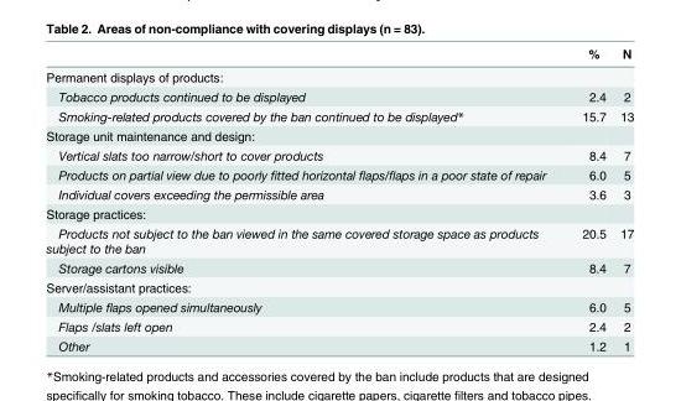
<table><thead><tr><td></td><td>%</td><td>N</td></tr></thead><tbody><tr><td colspan="3">Permanent displays of products:</td></tr><tr><td>Tobacco products continued to be displayed</td><td>2.4</td><td>2</td></tr><tr><td>Smoking-related products covered by the ban continued to be displayed*</td><td>15.7</td><td>13</td></tr><tr><td colspan="3">Storage unit maintenance and design:</td></tr><tr><td>Vertical slats too narrow/short to cover products</td><td>8.4</td><td>7</td></tr><tr><td>Products on partial view due to poorly fitted horizontal flaps/flaps in a poor state of repair</td><td>6.0</td><td>5</td></tr><tr><td>Individual covers exceeding the permissible area</td><td>3.6</td><td>3</td></tr><tr><td colspan="3">Storage practices:</td></tr><tr><td>Products not subject to the ban viewed in the same covered storage space as products subject to the ban</td><td>20.5</td><td>17</td></tr><tr><td>Storage cartons visible</td><td>8.4</td><td>7</td></tr><tr><td colspan="3">Server/assistant practices:</td></tr><tr><td>Multiple flaps opened simultaneously</td><td>6.0</td><td>5</td></tr><tr><td>Flaps /slats left open</td><td>2.4</td><td>2</td></tr><tr><td>Other</td><td>1.2</td><td>1</td></tr></tbody></table>